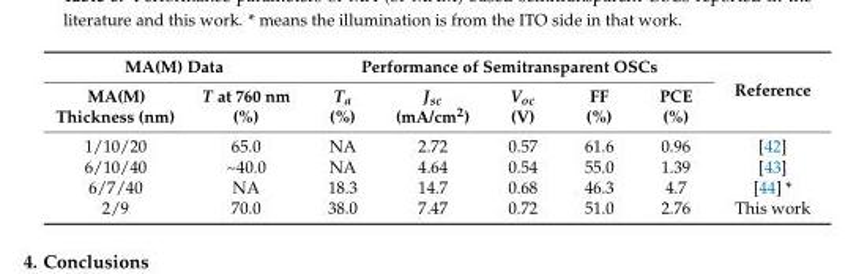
<table><thead><tr><td colspan="2">MA(M) Data</td><td colspan="5">Performance of Semitransparent OSCs</td><td rowspan="2">Reference</td></tr><tr><td>MA(M) Thickness (nm)</td><td>T at 760 nm (%)</td><td>T<sub>a</sub> (%)</td><td>J<sub>sc</sub> (mA/cm<sup>2</sup>)</td><td>V<sub>oc</sub> (V)</td><td>FF (%)</td><td>PCE (%)</td></tr></thead><tbody><tr><td>1/10/20</td><td>65.0</td><td>NA</td><td>2.72</td><td>0.57</td><td>61.6</td><td>0.96</td><td>[42]</td></tr><tr><td>6/10/40</td><td>~40.0</td><td>NA</td><td>4.64</td><td>0.54</td><td>55.0</td><td>1.39</td><td>[43]</td></tr><tr><td>6/7/40</td><td>NA</td><td>18.3</td><td>14.7</td><td>0.68</td><td>46.3</td><td>4.7</td><td>[44] *</td></tr><tr><td>2/9</td><td>70.0</td><td>38.0</td><td>7.47</td><td>0.72</td><td>51.0</td><td>2.76</td><td>This work</td></tr></tbody></table>